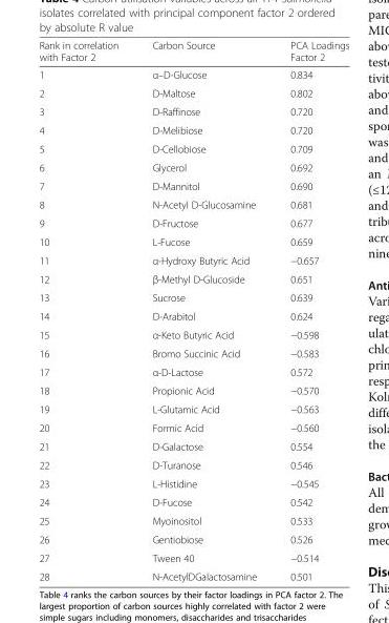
<table><thead><tr><td>Rank in correlation with Factor 2</td><td>Carbon Source</td><td>PCA Loadings Factor 2</td></tr></thead><tbody><tr><td>1</td><td>α–D-Glucose</td><td>0.834</td></tr><tr><td>2</td><td>D-Maltose</td><td>0.802</td></tr><tr><td>3</td><td>D-Raffinose</td><td>0.720</td></tr><tr><td>4</td><td>D-Melibiose</td><td>0.720</td></tr><tr><td>5</td><td>D-Cellobiose</td><td>0.709</td></tr><tr><td>6</td><td>Glycerol</td><td>0.692</td></tr><tr><td>7</td><td>D-Mannitol</td><td>0.690</td></tr><tr><td>8</td><td>N-Acetyl D-Glucosamine</td><td>0.681</td></tr><tr><td>9</td><td>D-Fructose</td><td>0.677</td></tr><tr><td>10</td><td>L-Fucose</td><td>0.659</td></tr><tr><td>11</td><td>α-Hydroxy Butyric Acid</td><td>−0.657</td></tr><tr><td>12</td><td>β-Methyl D-Glucoside</td><td>0.651</td></tr><tr><td>13</td><td>Sucrose</td><td>0.639</td></tr><tr><td>14</td><td>D-Arabitol</td><td>0.624</td></tr><tr><td>15</td><td>α-Keto Butyric Acid</td><td>−0.598</td></tr><tr><td>16</td><td>Bromo Succinic Acid</td><td>−0.583</td></tr><tr><td>17</td><td>α-D-Lactose</td><td>0.572</td></tr><tr><td>18</td><td>Propionic Acid</td><td>−0.570</td></tr><tr><td>19</td><td>L-Glutamic Acid</td><td>−0.563</td></tr><tr><td>20</td><td>Formic Acid</td><td>−0.560</td></tr><tr><td>21</td><td>D-Galactose</td><td>0.554</td></tr><tr><td>22</td><td>D-Turanose</td><td>0.546</td></tr><tr><td>23</td><td>L-Histidine</td><td>−0.545</td></tr><tr><td>24</td><td>D-Fucose</td><td>0.542</td></tr><tr><td>25</td><td>Myoinositol</td><td>0.533</td></tr><tr><td>26</td><td>Gentiobiose</td><td>0.526</td></tr><tr><td>27</td><td>Tween 40</td><td>−0.514</td></tr><tr><td>28</td><td>N-AcetylDGalactosamine</td><td>0.501</td></tr></tbody></table>